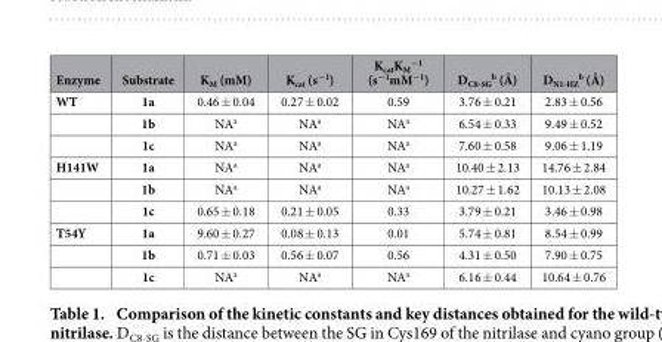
<table><thead><tr><td>Enzyme</td><td>Substrate</td><td>K<sub>M</sub> (mM)</td><td>K<sub>cat</sub> (s<sup>−1</sup>)</td><td>K<sub>cat</sub>K<sub>M</sub> <sup>−1</sup> (s<sup>−1</sup>mM<sup>−1</sup>)</td><td>D<sub>C8-SG</sub> <sup>b</sup> (Å)</td><td>D<sub>N1-HZ</sub> <sup>b</sup> (Å)</td></tr></thead><tbody><tr><td rowspan="3">WT</td><td>1a</td><td>0.46 ± 0.04</td><td>0.27 ± 0.02</td><td>0.59</td><td>3.76 ± 0.21</td><td>2.83 ± 0.56</td></tr><tr><td>1b</td><td>NA<sup>a</sup></td><td>NA<sup>a</sup></td><td>NA<sup>a</sup></td><td>6.54 ± 0.33</td><td>9.49 ± 0.52</td></tr><tr><td>1c</td><td>NA<sup>a</sup></td><td>NA<sup>a</sup></td><td>NA<sup>a</sup></td><td>7.60 ± 0.58</td><td>9.06 ± 1.19</td></tr><tr><td rowspan="3">H141W</td><td>1a</td><td>NA<sup>a</sup></td><td>NA<sup>a</sup></td><td>NA<sup>a</sup></td><td>10.40 ± 2.13</td><td>14.76 ± 2.84</td></tr><tr><td>1b</td><td>NA<sup>a</sup></td><td>NA<sup>a</sup></td><td>NA<sup>a</sup></td><td>10.27 ± 1.62</td><td>10.13 ± 2.08</td></tr><tr><td>1c</td><td>0.65 ± 0.18</td><td>0.21 ± 0.05</td><td>0.33</td><td>3.79 ± 0.21</td><td>3.46 ± 0.98</td></tr><tr><td rowspan="3">T54Y</td><td>1a</td><td>9.60 ± 0.27</td><td>0.08 ± 0.13</td><td>0.01</td><td>5.74 ± 0.81</td><td>8.54 ± 0.99</td></tr><tr><td>1b</td><td>0.71 ± 0.03</td><td>0.56 ± 0.07</td><td>0.56</td><td>4.31 ± 0.50</td><td>7.90 ± 0.75</td></tr><tr><td>1c</td><td>NA<sup>a</sup></td><td>NA<sup>a</sup></td><td>NA<sup>a</sup></td><td>6.16 ± 0.44</td><td>10.64 ± 0.76</td></tr></tbody></table>